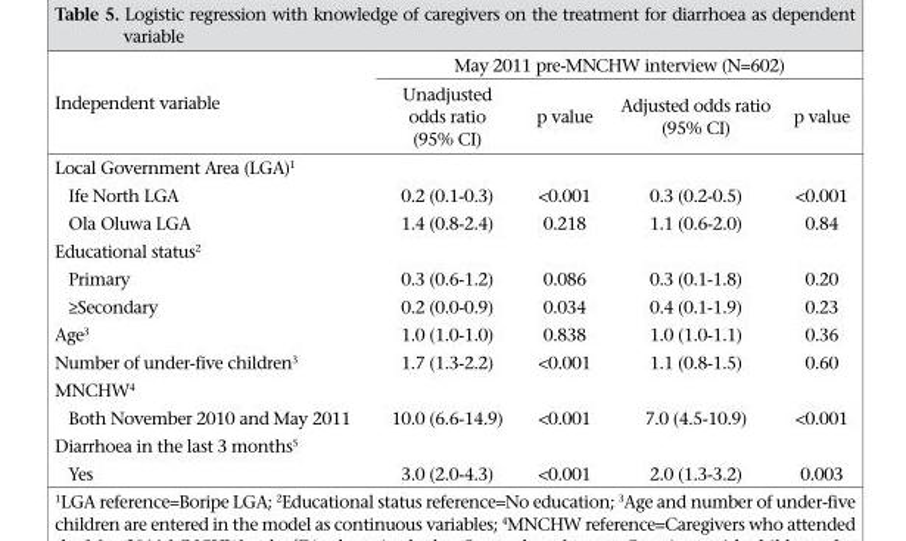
<table><thead><tr><td rowspan="2">Independent variable</td><td colspan="4">May 2011 pre-MNCHW interview (N=602)</td></tr><tr><td>Unadjusted odds ratio (95% CI)</td><td>p value</td><td>Adjusted odds ratio (95% CI)</td><td>p value</td></tr></thead><tbody><tr><td colspan="5">Local Government Area (LGA)<sup>1</sup></td></tr><tr><td>Ife North LGA</td><td>0.2 (0.1-0.3)</td><td>&lt;0.001</td><td>0.3 (0.2-0.5)</td><td>&lt;0.001</td></tr><tr><td>Ola Oluwa LGA</td><td>1.4 (0.8-2.4)</td><td>0.218</td><td>1.1 (0.6-2.0)</td><td>0.84</td></tr><tr><td colspan="5">Educational status<sup>2</sup></td></tr><tr><td>Primary</td><td>0.3 (0.6-1.2)</td><td>0.086</td><td>0.3 (0.1-1.8)</td><td>0.20</td></tr><tr><td>≥Secondary</td><td>0.2 (0.0-0.9)</td><td>0.034</td><td>0.4 (0.1-1.9)</td><td>0.23</td></tr><tr><td>Age<sup>3</sup></td><td>1.0 (1.0-1.0)</td><td>0.838</td><td>1.0 (1.0-1.1)</td><td>0.36</td></tr><tr><td>Number of under-five children<sup>3</sup></td><td>1.7 (1.3-2.2)</td><td>&lt;0.001</td><td>1.1 (0.8-1.5)</td><td>0.60</td></tr><tr><td colspan="5">MNCHW<sup>4</sup></td></tr><tr><td>Both November 2010 and May 2011</td><td>10.0 (6.6-14.9)</td><td>&lt;0.001</td><td>7.0 (4.5-10.9)</td><td>&lt;0.001</td></tr><tr><td colspan="5">Diarrhoea in the last 3 months<sup>5</sup></td></tr><tr><td>Yes</td><td>3.0 (2.0-4.3)</td><td>&lt;0.001</td><td>2.0 (1.3-3.2)</td><td>0.003</td></tr></tbody></table>